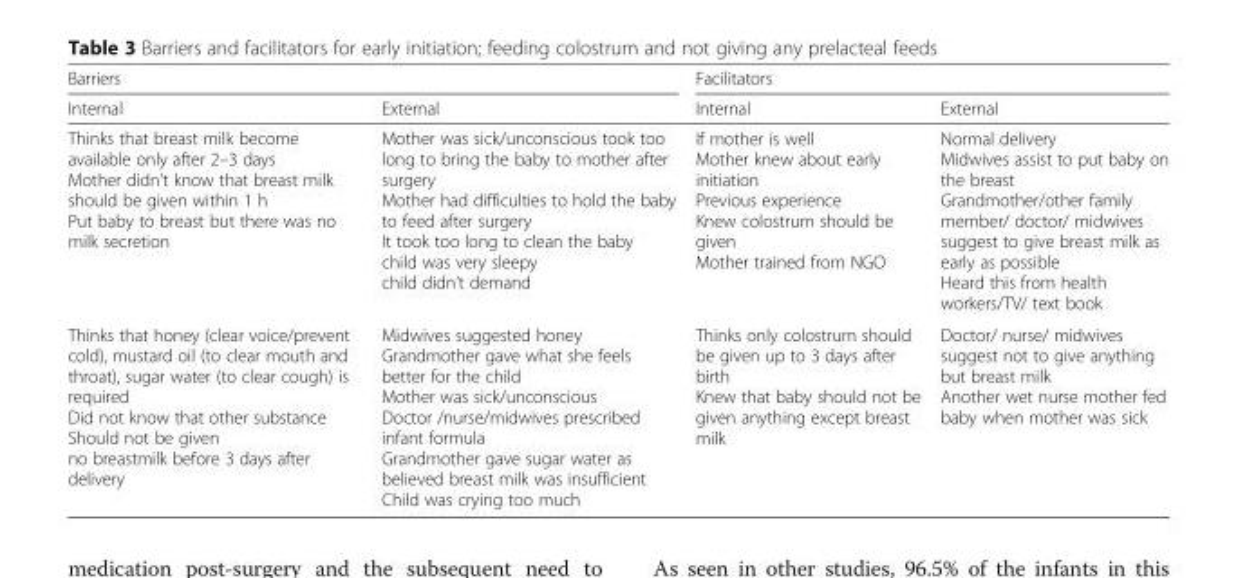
<table><thead><tr><td colspan="2">Barriers</td><td colspan="2">Facilitators</td></tr><tr><td>Internal</td><td>External</td><td>Internal</td><td>External</td></tr></thead><tbody><tr><td>Thinks that breast milk become available only after 2–3 days Mother didn’t know that breast milk should be given within 1 h Put baby to breast but there was no milk secretion</td><td>Mother was sick/unconscious took too long to bring the baby to mother after surgery Mother had difficulties to hold the baby to feed after surgery It took too long to clean the baby child was very sleepy child didn’t demand</td><td>If mother is well Mother knew about early initiation Previous experience Knew colostrum should be given Mother trained from NGO</td><td>Normal delivery Midwives assist to put baby on the breast Grandmother/other family member/ doctor/ midwives suggest to give breast milk as early as possible Heard this from health workers/TV/ text book</td></tr><tr><td>Thinks that honey (clear voice/prevent cold), mustard oil (to clear mouth and throat), sugar water (to clear cough) is required Did not know that other substance Should not be given no breastmilk before 3 days after delivery</td><td>Midwives suggested honey Grandmother gave what she feels better for the child Mother was sick/unconscious Doctor /nurse/midwives prescribed infant formula Grandmother gave sugar water as believed breast milk was insufficient Child was crying too much</td><td>Thinks only colostrum should be given up to 3 days after birth Knew that baby should not be given anything except breast milk</td><td>Doctor/ nurse/ midwives suggest not to give anything but breast milk Another wet nurse mother fed baby when mother was sick</td></tr></tbody></table>